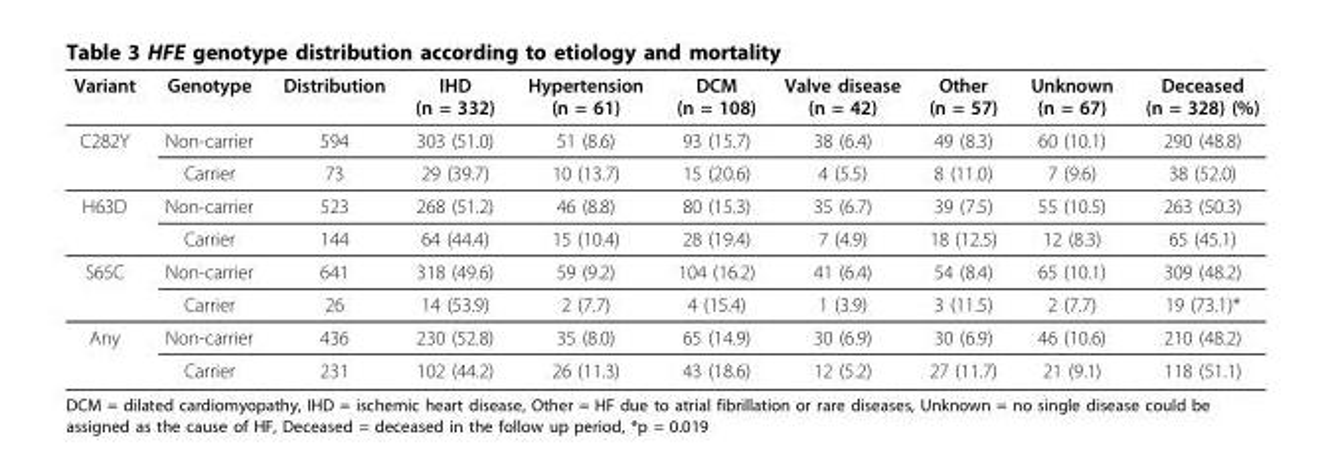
<table><thead><tr><td>Variant</td><td>Genotype</td><td>Distribution</td><td>IHD (n = 332)</td><td>Hypertension (n = 61)</td><td>DCM (n = 108)</td><td>Valve disease (n = 42)</td><td>Other (n = 57)</td><td>Unknown (n = 67)</td><td>Deceased (n = 328) (%)</td></tr></thead><tbody><tr><td rowspan="2">C282Y</td><td>Non-carrier</td><td>594</td><td>303 (51.0)</td><td>51 (8.6)</td><td>93 (15.7)</td><td>38 (6.4)</td><td>49 (8.3)</td><td>60 (10.1)</td><td>290 (48.8)</td></tr><tr><td>Carrier</td><td>73</td><td>29 (39.7)</td><td>10 (13.7)</td><td>15 (20.6)</td><td>4 (5.5)</td><td>8 (11.0)</td><td>7 (9.6)</td><td>38 (52.0)</td></tr><tr><td rowspan="2">H63D</td><td>Non-carrier</td><td>523</td><td>268 (51.2)</td><td>46 (8.8)</td><td>80 (15.3)</td><td>35 (6.7)</td><td>39 (7.5)</td><td>55 (10.5)</td><td>263 (50.3)</td></tr><tr><td>Carrier</td><td>144</td><td>64 (44.4)</td><td>15 (10.4)</td><td>28 (19.4)</td><td>7 (4.9)</td><td>18 (12.5)</td><td>12 (8.3)</td><td>65 (45.1)</td></tr><tr><td rowspan="2">S65C</td><td>Non-carrier</td><td>641</td><td>318 (49.6)</td><td>59 (9.2)</td><td>104 (16.2)</td><td>41 (6.4)</td><td>54 (8.4)</td><td>65 (10.1)</td><td>309 (48.2)</td></tr><tr><td>Carrier</td><td>26</td><td>14 (53.9)</td><td>2 (7.7)</td><td>4 (15.4)</td><td>1 (3.9)</td><td>3 (11.5)</td><td>2 (7.7)</td><td>19 (73.1)*</td></tr><tr><td rowspan="2">Any</td><td>Non-carrier</td><td>436</td><td>230 (52.8)</td><td>35 (8.0)</td><td>65 (14.9)</td><td>30 (6.9)</td><td>30 (6.9)</td><td>46 (10.6)</td><td>210 (48.2)</td></tr><tr><td>Carrier</td><td>231</td><td>102 (44.2)</td><td>26 (11.3)</td><td>43 (18.6)</td><td>12 (5.2)</td><td>27 (11.7)</td><td>21 (9.1)</td><td>118 (51.1)</td></tr></tbody></table>